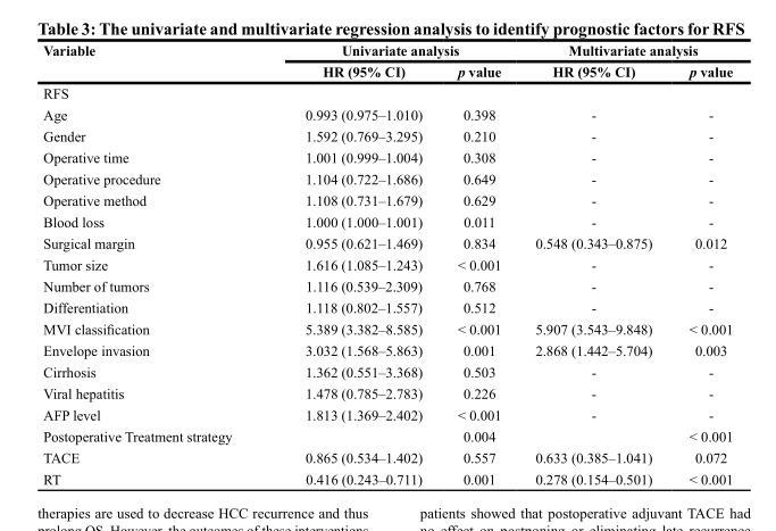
<table><thead><tr><td rowspan="2">Variable</td><td colspan="2">Univariate analysis</td><td colspan="2">Multivariate analysis</td></tr><tr><td>HR (95% CI)</td><td>p value</td><td>HR (95% CI)</td><td>p value</td></tr></thead><tbody><tr><td colspan="5">RFS</td></tr><tr><td>Age</td><td>0.993 (0.975–1.010)</td><td>0.398</td><td>-</td><td>-</td></tr><tr><td>Gender</td><td>1.592 (0.769–3.295)</td><td>0.210</td><td>-</td><td>-</td></tr><tr><td>Operative time</td><td>1.001 (0.999–1.004)</td><td>0.308</td><td>-</td><td>-</td></tr><tr><td>Operative procedure</td><td>1.104 (0.722–1.686)</td><td>0.649</td><td>-</td><td>-</td></tr><tr><td>Operative method</td><td>1.108 (0.731–1.679)</td><td>0.629</td><td>-</td><td>-</td></tr><tr><td>Blood loss</td><td>1.000 (1.000–1.001)</td><td>0.011</td><td>-</td><td>-</td></tr><tr><td>Surgical margin</td><td>0.955 (0.621–1.469)</td><td>0.834</td><td>0.548 (0.343–0.875)</td><td>0.012</td></tr><tr><td>Tumor size</td><td>1.616 (1.085–1.243)</td><td>&lt; 0.001</td><td>-</td><td>-</td></tr><tr><td>Number of tumors</td><td>1.116 (0.539–2.309)</td><td>0.768</td><td>-</td><td>-</td></tr><tr><td>Differentiation</td><td>1.118 (0.802–1.557)</td><td>0.512</td><td>-</td><td>-</td></tr><tr><td>MVI classification</td><td>5.389 (3.382–8.585)</td><td>&lt; 0.001</td><td>5.907 (3.543–9.848)</td><td>&lt; 0.001</td></tr><tr><td>Envelope invasion</td><td>3.032 (1.568–5.863)</td><td>0.001</td><td>2.868 (1.442–5.704)</td><td>0.003</td></tr><tr><td>Cirrhosis</td><td>1.362 (0.551–3.368)</td><td>0.503</td><td>-</td><td>-</td></tr><tr><td>Viral hepatitis</td><td>1.478 (0.785–2.783)</td><td>0.226</td><td>-</td><td>-</td></tr><tr><td>AFP level</td><td>1.813 (1.369–2.402)</td><td>&lt; 0.001</td><td>-</td><td>-</td></tr><tr><td>Postoperative Treatment strategy</td><td></td><td>0.004</td><td></td><td>&lt; 0.001</td></tr><tr><td>TACE</td><td>0.865 (0.534–1.402)</td><td>0.557</td><td>0.633 (0.385–1.041)</td><td>0.072</td></tr><tr><td>RT</td><td>0.416 (0.243–0.711)</td><td>0.001</td><td>0.278 (0.154–0.501)</td><td>&lt; 0.001</td></tr></tbody></table>